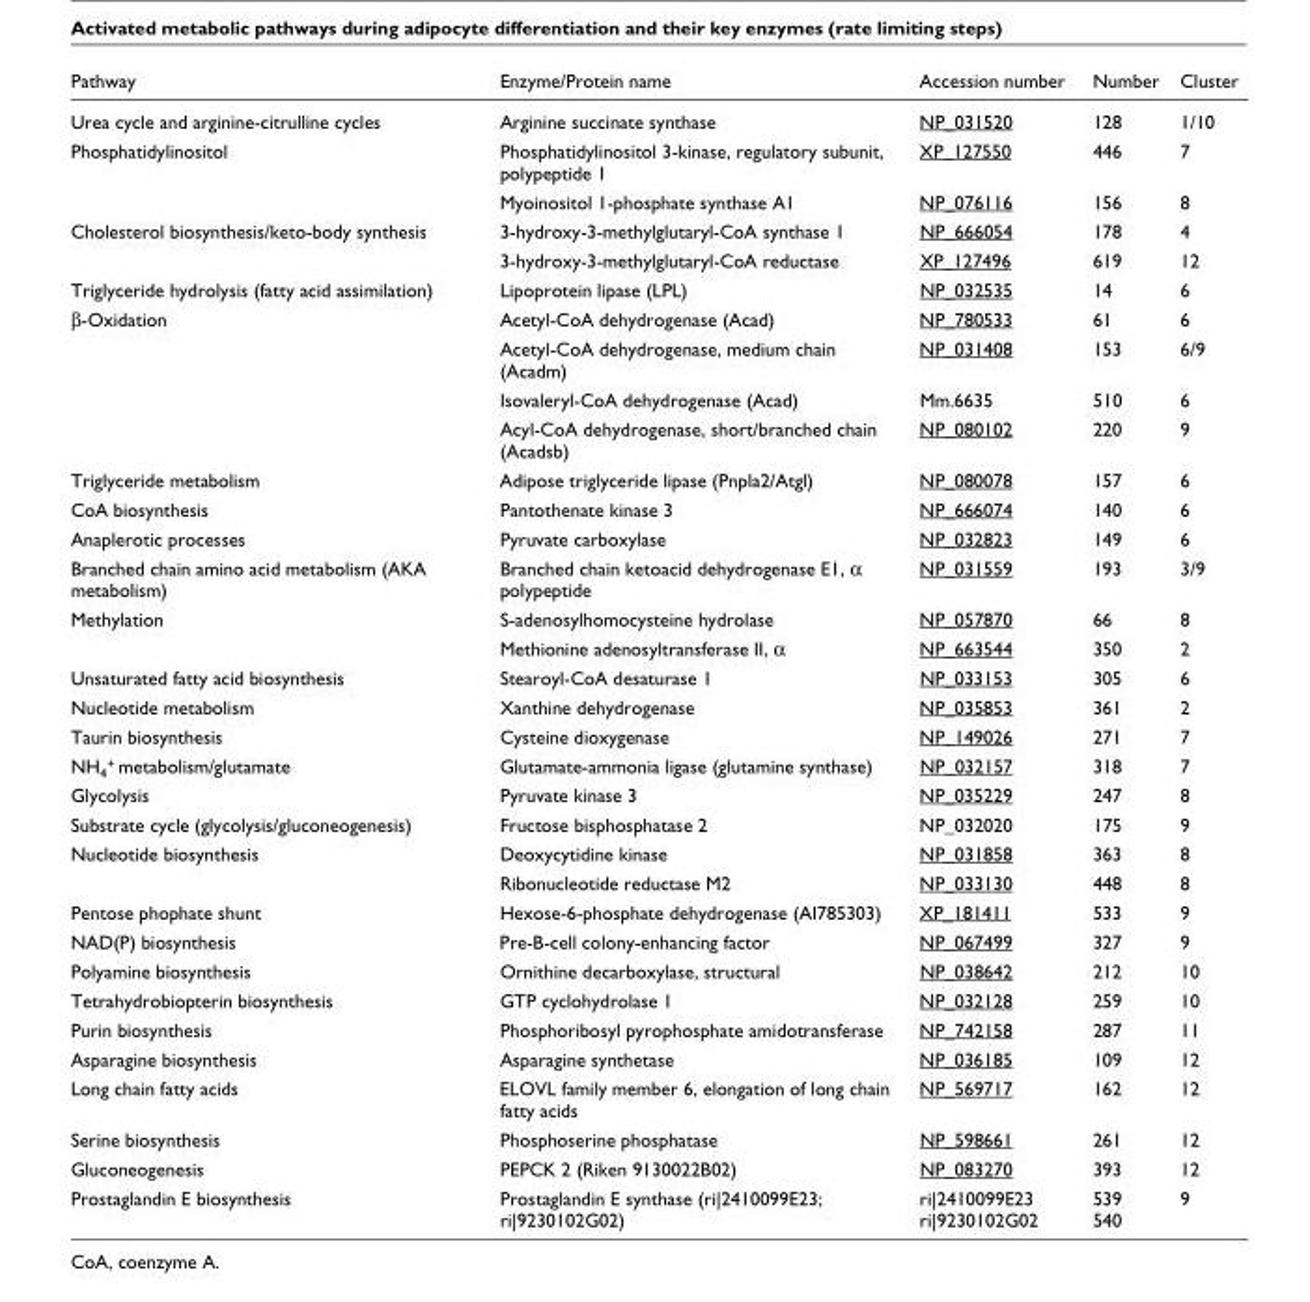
<table><thead><tr><td>Pathway</td><td>Enzyme/Protein name</td><td>Accession number</td><td>Number</td><td>Cluster</td></tr></thead><tbody><tr><td>Urea cycle and arginine-citrulline cycles</td><td>Arginine succinate synthase</td><td>NP_031520</td><td>128</td><td>1/10</td></tr><tr><td rowspan="2">Phosphatidylinositol</td><td>Phosphatidylinositol 3-kinase, regulatory subunit, polypeptide 1</td><td>XP_127550</td><td>446</td><td>7</td></tr><tr><td>Myoinositol 1-phosphate synthase A1</td><td>NP_076116</td><td>156</td><td>8</td></tr><tr><td rowspan="2">Cholesterol biosynthesis/keto-body synthesis</td><td>3-hydroxy-3-methylglutaryl-CoA synthase 1</td><td>NP_666054</td><td>178</td><td>4</td></tr><tr><td>3-hydroxy-3-methylglutaryl-CoA reductase</td><td>XP_127496</td><td>619</td><td>12</td></tr><tr><td>Triglyceride hydrolysis (fatty acid assimilation)</td><td>Lipoprotein lipase (LPL)</td><td>NP_032535</td><td>14</td><td>6</td></tr><tr><td rowspan="4">β-Oxidation</td><td>Acetyl-CoA dehydrogenase (Acad)</td><td>NP_780533</td><td>61</td><td>6</td></tr><tr><td>Acetyl-CoA dehydrogenase, medium chain (Acadm)</td><td>NP_031408</td><td>153</td><td>6/9</td></tr><tr><td>Isovaleryl-CoA dehydrogenase (Acad)</td><td>Mm.6635</td><td>510</td><td>6</td></tr><tr><td>Acyl-CoA dehydrogenase, short/branched chain (Acadsb)</td><td>NP_080102</td><td>220</td><td>9</td></tr><tr><td>Triglyceride metabolism</td><td>Adipose triglyceride lipase (Pnpla2/Atgl)</td><td>NP_080078</td><td>157</td><td>6</td></tr><tr><td>CoA biosynthesis</td><td>Pantothenate kinase 3</td><td>NP_666074</td><td>140</td><td>6</td></tr><tr><td>Anaplerotic processes</td><td>Pyruvate carboxylase</td><td>NP_032823</td><td>149</td><td>6</td></tr><tr><td>Branched chain amino acid metabolism (AKA metabolism)</td><td>Branched chain ketoacid dehydrogenase E1, α polypeptide</td><td>NP_031559</td><td>193</td><td>3/9</td></tr><tr><td rowspan="2">Methylation</td><td>S-adenosylhomocysteine hydrolase</td><td>NP_057870</td><td>66</td><td>8</td></tr><tr><td>Methionine adenosyltransferase II, α</td><td>NP_663544</td><td>350</td><td>2</td></tr><tr><td>Unsaturated fatty acid biosynthesis</td><td>Stearoyl-CoA desaturase 1</td><td>NP_033153</td><td>305</td><td>6</td></tr><tr><td>Nucleotide metabolism</td><td>Xanthine dehydrogenase</td><td>NP_035853</td><td>361</td><td>2</td></tr><tr><td>Taurin biosynthesis</td><td>Cysteine dioxygenase</td><td>NP_149026</td><td>271</td><td>7</td></tr><tr><td>NH4+ metabolism/glutamate</td><td>Glutamate-ammonia ligase (glutamine synthase)</td><td>NP_032157</td><td>318</td><td>7</td></tr><tr><td>Glycolysis</td><td>Pyruvate kinase 3</td><td>NP_035229</td><td>247</td><td>8</td></tr><tr><td>Substrate cycle (glycolysis/gluconeogenesis)</td><td>Fructose bisphosphatase 2</td><td>NP_032020</td><td>175</td><td>9</td></tr><tr><td rowspan="2">Nucleotide biosynthesis</td><td>Deoxycytidine kinase</td><td>NP_031858</td><td>363</td><td>8</td></tr><tr><td>Ribonucleotide reductase M2</td><td>NP_033130</td><td>448</td><td>8</td></tr><tr><td>Pentose phophate shunt</td><td>Hexose-6-phosphate dehydrogenase (AI785303)</td><td>XP_181411</td><td>533</td><td>9</td></tr><tr><td>NAD(P) biosynthesis</td><td>Pre-B-cell colony-enhancing factor</td><td>NP_067499</td><td>327</td><td>9</td></tr><tr><td>Polyamine biosynthesis</td><td>Ornithine decarboxylase, structural</td><td>NP_038642</td><td>212</td><td>10</td></tr><tr><td>Tetrahydrobiopterin biosynthesis</td><td>GTP cyclohydrolase 1</td><td>NP_032128</td><td>259</td><td>10</td></tr><tr><td>Purin biosynthesis</td><td>Phosphoribosyl pyrophosphate amidotransferase</td><td>NP_742158</td><td>287</td><td>11</td></tr><tr><td>Asparagine biosynthesis</td><td>Asparagine synthetase</td><td>NP_036185</td><td>109</td><td>12</td></tr><tr><td>Long chain fatty acids</td><td>ELOVL family member 6, elongation of long chain fatty acids</td><td>NP_569717</td><td>162</td><td>12</td></tr><tr><td>Serine biosynthesis</td><td>Phosphoserine phosphatase</td><td>NP_598661</td><td>261</td><td>12</td></tr><tr><td>Gluconeogenesis</td><td>PEPCK 2 (Riken 9130022B02)</td><td>NP_083270</td><td>393</td><td>12</td></tr><tr><td>Prostaglandin E biosynthesis</td><td>Prostaglandin E synthase (ri|2410099E23; ri|9230102G02)</td><td>ri|2410099E23 ri|9230102G02</td><td>539 540</td><td>9</td></tr></tbody></table>